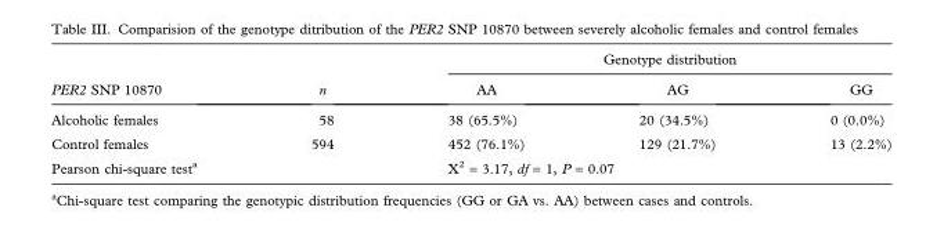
<table><thead><tr><td rowspan="2">PER2 SNP 10870</td><td rowspan="2">n</td><td colspan="3">Genotype distribution</td></tr><tr><td>AA</td><td>AG</td><td>GG</td></tr></thead><tbody><tr><td>Alcoholic females</td><td>58</td><td>38 (65.5%)</td><td>20 (34.5%)</td><td>0 (0.0%)</td></tr><tr><td>Control females</td><td>594</td><td>452 (76.1%)</td><td>129 (21.7%)</td><td>13 (2.2%)</td></tr><tr><td>Pearson chi-square test<sup>a</sup></td><td></td><td colspan="3">X<sup>2</sup> = 3.17, df = 1, P = 0.07</td></tr></tbody></table>